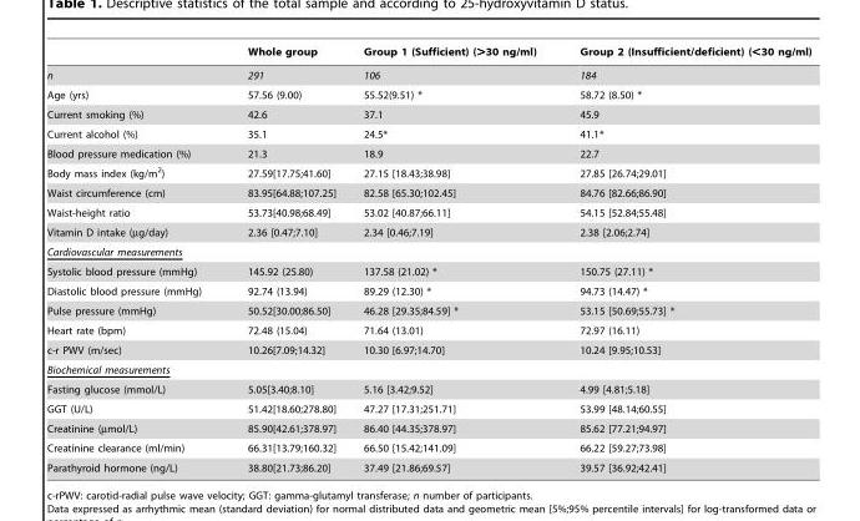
<table><thead><tr><td></td><td>Whole group</td><td>Group 1 (Sufficient) (&gt;30 ng/ml)</td><td>Group 2 (Insufficient/deficient) (&lt;30 ng/ml)</td></tr></thead><tbody><tr><td>n</td><td>291</td><td>106</td><td>184</td></tr><tr><td>Age (yrs)</td><td>57.56 (9.00)</td><td>55.52(9.51) *</td><td>58.72 (8.50) *</td></tr><tr><td>Current smoking (%)</td><td>42.6</td><td>37.1</td><td>45.9</td></tr><tr><td>Current alcohol (%)</td><td>35.1</td><td>24.5*</td><td>41.1*</td></tr><tr><td>Blood pressure medication (%)</td><td>21.3</td><td>18.9</td><td>22.7</td></tr><tr><td>Body mass index (kg/m<sup>2</sup>)</td><td>27.59[17.75;41.60]</td><td>27.15 [18.43;38.98]</td><td>27.85 [26.74;29.01]</td></tr><tr><td>Waist circumference (cm)</td><td>83.95[64.88;107.25]</td><td>82.58 [65.30;102.45]</td><td>84.76 [82.66;86.90]</td></tr><tr><td>Waist-height ratio</td><td>53.73[40.98;68.49]</td><td>53.02 [40.87;66.11]</td><td>54.15 [52.84;55.48]</td></tr><tr><td>Vitamin D intake (µg/day)</td><td>2.36 [0.47;7.10]</td><td>2.34 [0.46;7.19]</td><td>2.38 [2.06;2.74]</td></tr><tr><td colspan="4">Cardiovascular measurements</td></tr><tr><td>Systolic blood pressure (mmHg)</td><td>145.92 (25.80)</td><td>137.58 (21.02) *</td><td>150.75 (27.11) *</td></tr><tr><td>Diastolic blood pressure (mmHg)</td><td>92.74 (13.94)</td><td>89.29 (12.30) *</td><td>94.73 (14.47) *</td></tr><tr><td>Pulse pressure (mmHg)</td><td>50.52[30.00;86.50]</td><td>46.28 [29.35;84.59] *</td><td>53.15 [50.69;55.73] *</td></tr><tr><td>Heart rate (bpm)</td><td>72.48 (15.04)</td><td>71.64 (13.01)</td><td>72.97 (16.11)</td></tr><tr><td>c-r PWV (m/sec)</td><td>10.26[7.09;14.32]</td><td>10.30 [6.97;14.70]</td><td>10.24 [9.95;10.53]</td></tr><tr><td colspan="4">Biochemical measurements</td></tr><tr><td>Fasting glucose (mmol/L)</td><td>5.05[3.40;8.10]</td><td>5.16 [3.42;9.52]</td><td>4.99 [4.81;5.18]</td></tr><tr><td>GGT (U/L)</td><td>51.42[18.60;278.80]</td><td>47.27 [17.31;251.71]</td><td>53.99 [48.14;60.55]</td></tr><tr><td>Creatinine (µmol/L)</td><td>85.90[42.61;378.97]</td><td>86.40 [44.35;378.97]</td><td>85.62 [77.21;94.97]</td></tr><tr><td>Creatinine clearance (ml/min)</td><td>66.31[13.79;160.32]</td><td>66.50 [15.42;141.09]</td><td>66.22 [59.27;73.98]</td></tr><tr><td>Parathyroid hormone (ng/L)</td><td>38.80[21.73;86.20]</td><td>37.49 [21.86;69.57]</td><td>39.57 [36.92;42.41]</td></tr></tbody></table>